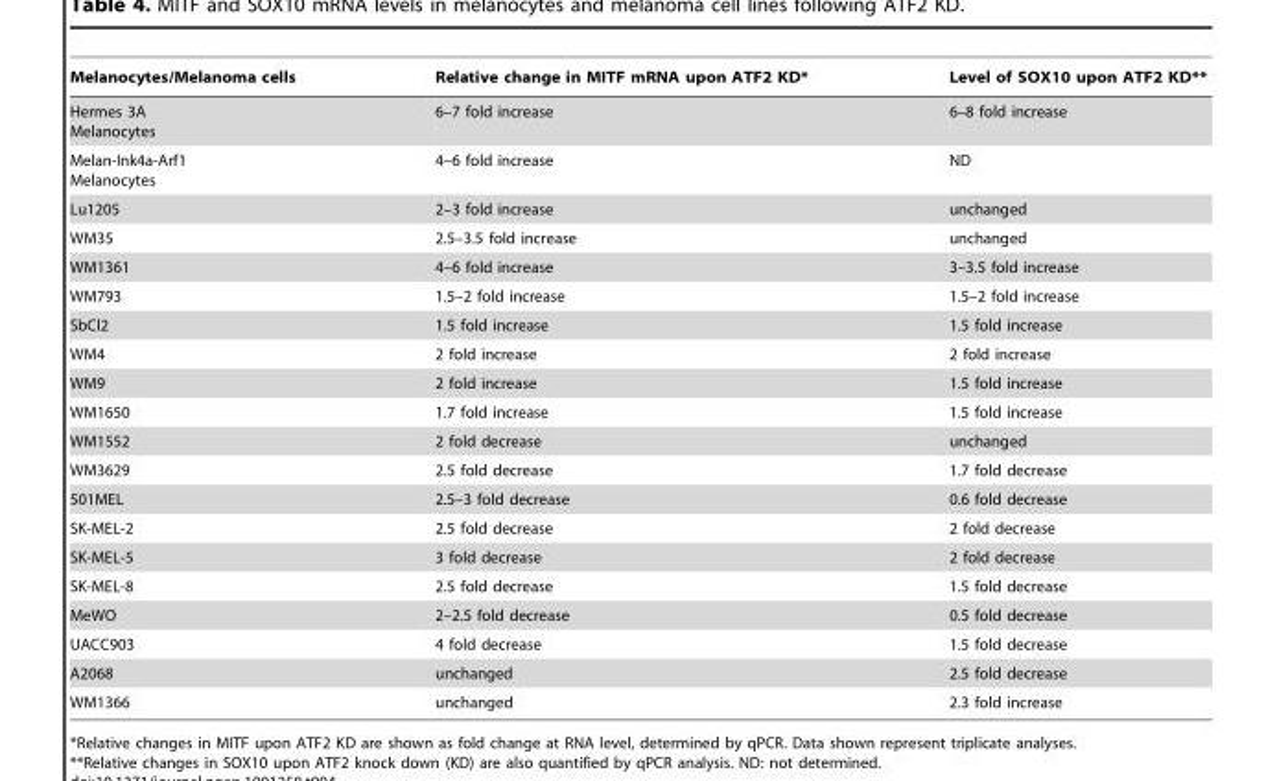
<table><thead><tr><td>Melanocytes/Melanoma cells</td><td>Relative change in MITF mRNA upon ATF2 KD*</td><td>Level of SOX10 upon ATF2 KD**</td></tr></thead><tbody><tr><td>Hermes 3A Melanocytes</td><td>6–7 fold increase</td><td>6–8 fold increase</td></tr><tr><td>Melan-Ink4a-Arf1 Melanocytes</td><td>4–6 fold increase</td><td>ND</td></tr><tr><td>Lu1205</td><td>2–3 fold increase</td><td>unchanged</td></tr><tr><td>WM35</td><td>2.5–3.5 fold increase</td><td>unchanged</td></tr><tr><td>WM1361</td><td>4–6 fold increase</td><td>3–3.5 fold increase</td></tr><tr><td>WM793</td><td>1.5–2 fold increase</td><td>1.5–2 fold increase</td></tr><tr><td>SbCl2</td><td>1.5 fold increase</td><td>1.5 fold increase</td></tr><tr><td>WM4</td><td>2 fold increase</td><td>2 fold increase</td></tr><tr><td>WM9</td><td>2 fold increase</td><td>1.5 fold increase</td></tr><tr><td>WM1650</td><td>1.7 fold increase</td><td>1.5 fold increase</td></tr><tr><td>WM1552</td><td>2 fold decrease</td><td>unchanged</td></tr><tr><td>WM3629</td><td>2.5 fold decrease</td><td>1.7 fold decrease</td></tr><tr><td>501MEL</td><td>2.5–3 fold decrease</td><td>0.6 fold decrease</td></tr><tr><td>SK-MEL-2</td><td>2.5 fold decrease</td><td>2 fold decrease</td></tr><tr><td>SK-MEL-5</td><td>3 fold decrease</td><td>2 fold decrease</td></tr><tr><td>SK-MEL-8</td><td>2.5 fold decrease</td><td>1.5 fold decrease</td></tr><tr><td>MeWO</td><td>2–2.5 fold decrease</td><td>0.5 fold decrease</td></tr><tr><td>UACC903</td><td>4 fold decrease</td><td>1.5 fold decrease</td></tr><tr><td>A2068</td><td>unchanged</td><td>2.5 fold decrease</td></tr><tr><td>WM1366</td><td>unchanged</td><td>2.3 fold increase</td></tr></tbody></table>